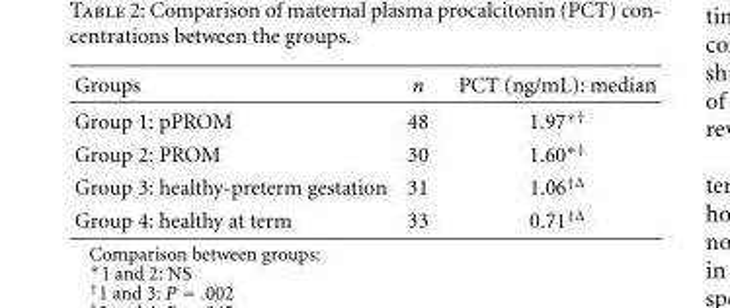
<table><tbody><tr><td>Groups</td><td>n</td><td>PCT (ng/mL): median</td></tr><tr><td>Group 1: pPROM</td><td>48</td><td>1.97∗†</td></tr><tr><td>Group 2: PROM</td><td>30</td><td>1.60∗‡</td></tr><tr><td>Group 3: healthy-preterm gestation</td><td>31</td><td>1.06<sup>†Δ</sup></td></tr><tr><td>Group 4: healthy at term</td><td>33</td><td>0.71<sup>‡Δ</sup></td></tr></tbody></table>